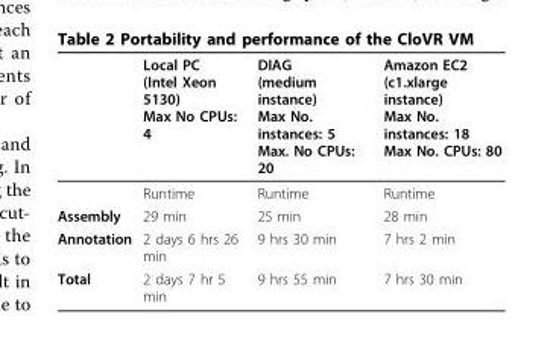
<table><thead><tr><td></td><td>Local PC (Intel Xeon 5130) Max No CPUs: 4</td><td>DIAG (medium instance) Max No. instances: 5 Max. No CPUs: 20</td><td>Amazon EC2 (c1.xlarge instance) Max No. instances: 18 Max No. CPUs: 80</td></tr></thead><tbody><tr><td></td><td>Runtime</td><td>Runtime</td><td>Runtime</td></tr><tr><td>Assembly</td><td>29 min</td><td>25 min</td><td>28 min</td></tr><tr><td>Annotation</td><td>2 days 6 hrs 26 min</td><td>9 hrs 30 min</td><td>7 hrs 2 min</td></tr><tr><td>Total</td><td>2 days 7 hr 5 min</td><td>9 hrs 55 min</td><td>7 hrs 30 min</td></tr></tbody></table>